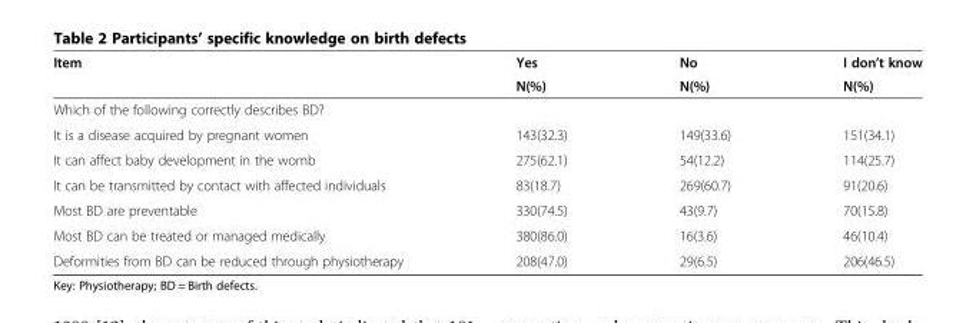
<table><thead><tr><td rowspan="2">Item</td><td rowspan="2">Yes N(%)</td><td rowspan="2">No N(%)</td><td rowspan="2">I don’t know N(%)</td></tr><tr></tr></thead><tbody><tr><td colspan="4">Which of the following correctly describes BD?</td></tr><tr><td>It is a disease acquired by pregnant women</td><td>143(32.3)</td><td>149(33.6)</td><td>151(34.1)</td></tr><tr><td>It can affect baby development in the womb</td><td>275(62.1)</td><td>54(12.2)</td><td>114(25.7)</td></tr><tr><td>It can be transmitted by contact with affected individuals</td><td>83(18.7)</td><td>269(60.7)</td><td>91(20.6)</td></tr><tr><td>Most BD are preventable</td><td>330(74.5)</td><td>43(9.7)</td><td>70(15.8)</td></tr><tr><td>Most BD can be treated or managed medically</td><td>380(86.0)</td><td>16(3.6)</td><td>46(10.4)</td></tr><tr><td>Deformities from BD can be reduced through physiotherapy</td><td>208(47.0)</td><td>29(6.5)</td><td>206(46.5)</td></tr></tbody></table>